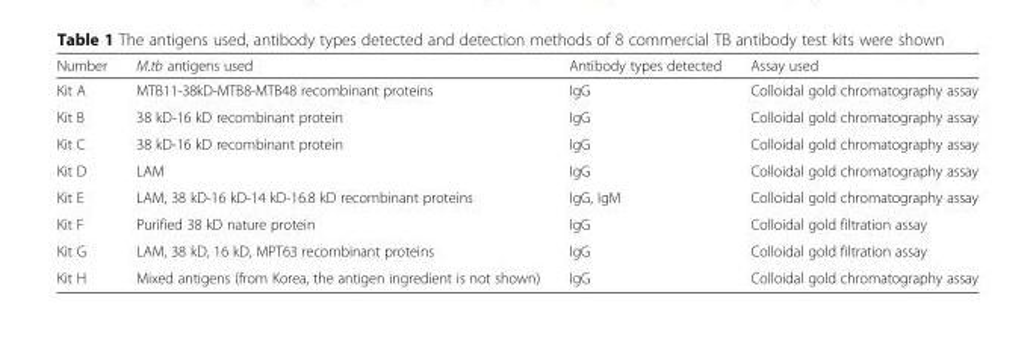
<table><thead><tr><td>Number</td><td>M.tb antigens used</td><td>Antibody types detected</td><td>Assay used</td></tr></thead><tbody><tr><td>Kit A</td><td>MTB11-38kD-MTB8-MTB48 recombinant proteins</td><td>IgG</td><td>Colloidal gold chromatography assay</td></tr><tr><td>Kit B</td><td>38 kD-16 kD recombinant protein</td><td>IgG</td><td>Colloidal gold chromatography assay</td></tr><tr><td>Kit C</td><td>38 kD-16 kD recombinant protein</td><td>IgG</td><td>Colloidal gold chromatography assay</td></tr><tr><td>Kit D</td><td>LAM</td><td>IgG</td><td>Colloidal gold chromatography assay</td></tr><tr><td>Kit E</td><td>LAM, 38 kD-16 kD-14 kD-16.8 kD recombinant proteins</td><td>IgG, IgM</td><td>Colloidal gold chromatography assay</td></tr><tr><td>Kit F</td><td>Purified 38 kD nature protein</td><td>IgG</td><td>Colloidal gold filtration assay</td></tr><tr><td>Kit G</td><td>LAM, 38 kD, 16 kD, MPT63 recombinant proteins</td><td>IgG</td><td>Colloidal gold filtration assay</td></tr><tr><td>Kit H</td><td>Mixed antigens (from Korea, the antigen ingredient is not shown)</td><td>IgG</td><td>Colloidal gold chromatography assay</td></tr></tbody></table>